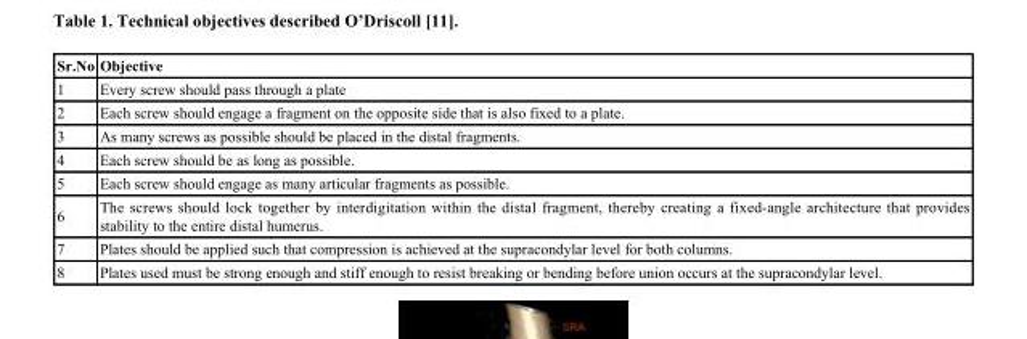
<table><thead><tr><td>Sr.No</td><td>Objective</td></tr></thead><tbody><tr><td>1</td><td>Every screw should pass through a plate</td></tr><tr><td>2</td><td>Each screw should engage a fragment on the opposite side that is also fixed to a plate.</td></tr><tr><td>3</td><td>As many screws as possible should be placed in the distal fragments.</td></tr><tr><td>4</td><td>Each screw should be as long as possible.</td></tr><tr><td>5</td><td>Each screw should engage as many articular fragments as possible.</td></tr><tr><td>6</td><td>The screws should lock together by interdigitation within the distal fragment, thereby creating a fixed-angle architecture that provides stability to the entire distal humerus.</td></tr><tr><td>7</td><td>Plates should be applied such that compression is achieved at the supracondylar level for both columns.</td></tr><tr><td>8</td><td>Plates used must be strong enough and stiff enough to resist breaking or bending before union occurs at the supracondylar level.</td></tr></tbody></table>